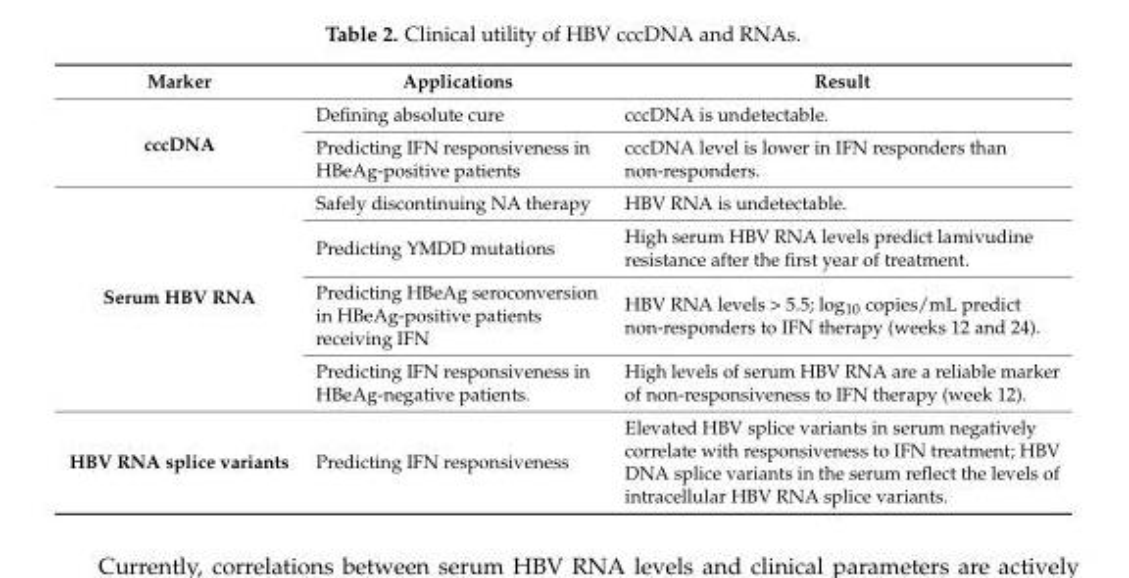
<table><thead><tr><td>Marker</td><td>Applications</td><td>Result</td></tr></thead><tbody><tr><td rowspan="2">cccDNA</td><td>Defining absolute cure</td><td>cccDNA is undetectable.</td></tr><tr><td>Predicting IFN responsiveness in HBeAg-positive patients</td><td>cccDNA level is lower in IFN responders than non-responders.</td></tr><tr><td rowspan="4">Serum HBV RNA</td><td>Safely discontinuing NA therapy</td><td>HBV RNA is undetectable.</td></tr><tr><td>Predicting YMDD mutations</td><td>High serum HBV RNA levels predict lamivudine resistance after the first year of treatment.</td></tr><tr><td>Predicting HBeAg seroconversion in HBeAg-positive patients receiving IFN</td><td>HBV RNA levels &gt; 5.5; log<sub>10</sub> copies/mL predict non-responders to IFN therapy (weeks 12 and 24).</td></tr><tr><td>Predicting IFN responsiveness in HBeAg-negative patients.</td><td>High levels of serum HBV RNA are a reliable marker of non-responsiveness to IFN therapy (week 12).</td></tr><tr><td>HBV RNA splice variants</td><td>Predicting IFN responsiveness</td><td>Elevated HBV splice variants in serum negatively correlate with responsiveness to IFN treatment; HBV DNA splice variants in the serum reflect the levels of intracellular HBV RNA splice variants.</td></tr></tbody></table>